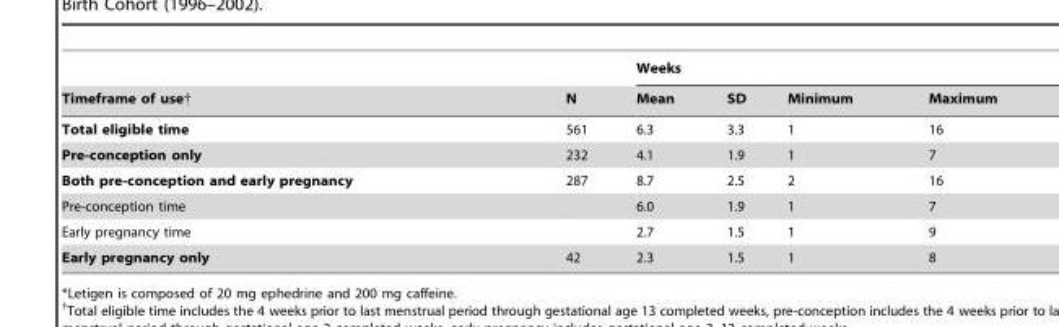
<table><thead><tr><td rowspan="2">Timeframe of use†</td><td rowspan="2">N</td><td colspan="4">Weeks</td></tr><tr><td>Mean</td><td>SD</td><td>Minimum</td><td>Maximum</td></tr></thead><tbody><tr><td>Total eligible time</td><td>561</td><td>6.3</td><td>3.3</td><td>1</td><td>16</td></tr><tr><td>Pre-conception only</td><td>232</td><td>4.1</td><td>1.9</td><td>1</td><td>7</td></tr><tr><td>Both pre-conception and early pregnancy</td><td>287</td><td>8.7</td><td>2.5</td><td>2</td><td>16</td></tr><tr><td>Pre-conception time</td><td></td><td>6.0</td><td>1.9</td><td>1</td><td>7</td></tr><tr><td>Early pregnancy time</td><td></td><td>2.7</td><td>1.5</td><td>1</td><td>9</td></tr><tr><td>Early pregnancy only</td><td>42</td><td>2.3</td><td>1.5</td><td>1</td><td>8</td></tr></tbody></table>